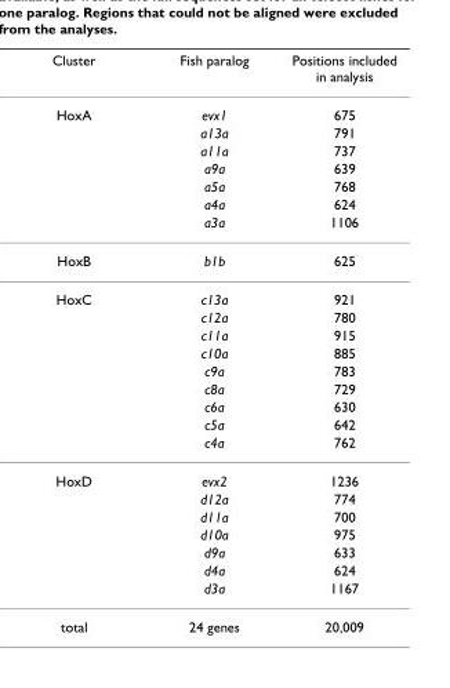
<table><thead><tr><td>Cluster</td><td>Fish paralog</td><td>Positions included in analysis</td></tr></thead><tbody><tr><td rowspan="7">HoxA</td><td>evx1</td><td>675</td></tr><tr><td>a13a</td><td>791</td></tr><tr><td>a11a</td><td>737</td></tr><tr><td>a9a</td><td>639</td></tr><tr><td>a5a</td><td>768</td></tr><tr><td>a4a</td><td>624</td></tr><tr><td>a3a</td><td>1106</td></tr><tr><td>HoxB</td><td>b1b</td><td>625</td></tr><tr><td rowspan="9">HoxC</td><td>c13a</td><td>921</td></tr><tr><td>c12a</td><td>780</td></tr><tr><td>c11a</td><td>915</td></tr><tr><td>c10a</td><td>885</td></tr><tr><td>c9a</td><td>783</td></tr><tr><td>c8a</td><td>729</td></tr><tr><td>c6a</td><td>630</td></tr><tr><td>c5a</td><td>642</td></tr><tr><td>c4a</td><td>762</td></tr><tr><td rowspan="7">HoxD</td><td>evx2</td><td>1236</td></tr><tr><td>d12a</td><td>774</td></tr><tr><td>d11a</td><td>700</td></tr><tr><td>d10a</td><td>975</td></tr><tr><td>d9a</td><td>633</td></tr><tr><td>d4a</td><td>624</td></tr><tr><td>d3a</td><td>1167</td></tr><tr><td>total</td><td>24 genes</td><td>20,009</td></tr></tbody></table>